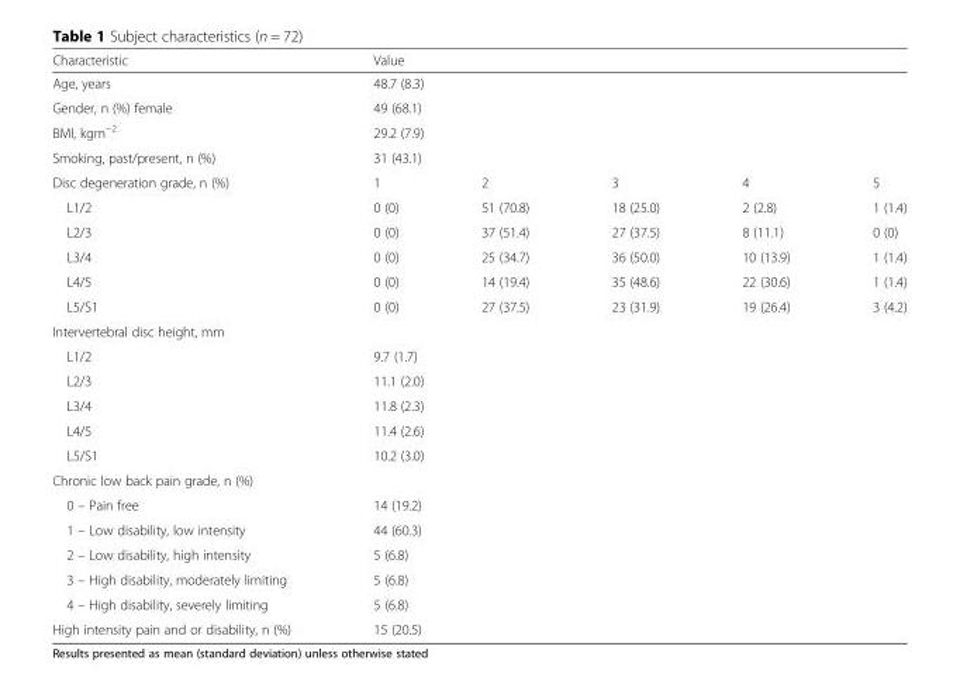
<table><thead><tr><td>Characteristic</td><td colspan="5">Value</td></tr></thead><tbody><tr><td>Age, years</td><td colspan="5">48.7 (8.3)</td></tr><tr><td>Gender, n (%) female</td><td colspan="5">49 (68.1)</td></tr><tr><td>BMI, kgm<sup>−2</sup></td><td colspan="5">29.2 (7.9)</td></tr><tr><td>Smoking, past/present, n (%)</td><td colspan="5">31 (43.1)</td></tr><tr><td>Disc degeneration grade, n (%)</td><td>1</td><td>2</td><td>3</td><td>4</td><td>5</td></tr><tr><td>L1/2</td><td>0 (0)</td><td>51 (70.8)</td><td>18 (25.0)</td><td>2 (2.8)</td><td>1 (1.4)</td></tr><tr><td>L2/3</td><td>0 (0)</td><td>37 (51.4)</td><td>27 (37.5)</td><td>8 (11.1)</td><td>0 (0)</td></tr><tr><td>L3/4</td><td>0 (0)</td><td>25 (34.7)</td><td>36 (50.0)</td><td>10 (13.9)</td><td>1 (1.4)</td></tr><tr><td>L4/5</td><td>0 (0)</td><td>14 (19.4)</td><td>35 (48.6)</td><td>22 (30.6)</td><td>1 (1.4)</td></tr><tr><td>L5/S1</td><td>0 (0)</td><td>27 (37.5)</td><td>23 (31.9)</td><td>19 (26.4)</td><td>3 (4.2)</td></tr><tr><td colspan="6">Intervertebral disc height, mm</td></tr><tr><td>L1/2</td><td colspan="5">9.7 (1.7)</td></tr><tr><td>L2/3</td><td colspan="5">11.1 (2.0)</td></tr><tr><td>L3/4</td><td colspan="5">11.8 (2.3)</td></tr><tr><td>L4/5</td><td colspan="5">11.4 (2.6)</td></tr><tr><td>L5/S1</td><td colspan="5">10.2 (3.0)</td></tr><tr><td colspan="6">Chronic low back pain grade, n (%)</td></tr><tr><td>0 – Pain free</td><td colspan="5">14 (19.2)</td></tr><tr><td>1 – Low disability, low intensity</td><td colspan="5">44 (60.3)</td></tr><tr><td>2 – Low disability, high intensity</td><td colspan="5">5 (6.8)</td></tr><tr><td>3 – High disability, moderately limiting</td><td colspan="5">5 (6.8)</td></tr><tr><td>4 – High disability, severely limiting</td><td colspan="5">5 (6.8)</td></tr><tr><td>High intensity pain and or disability, n (%)</td><td colspan="5">15 (20.5)</td></tr></tbody></table>